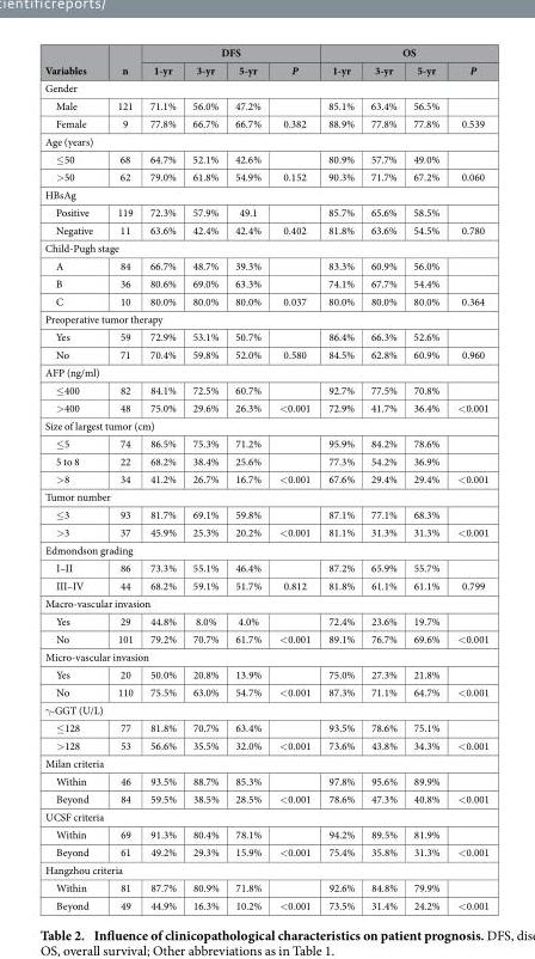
<table><thead><tr><td rowspan="2">Variables</td><td rowspan="2">n</td><td colspan="4">DFS</td><td colspan="4">OS</td></tr><tr><td>1-yr</td><td>3-yr</td><td>5-yr</td><td>P</td><td>1-yr</td><td>3-yr</td><td>5-yr</td><td>P</td></tr></thead><tbody><tr><td colspan="10">Gender</td></tr><tr><td>Male</td><td>121</td><td>71.1%</td><td>56.0%</td><td>47.2%</td><td></td><td>85.1%</td><td>63.4%</td><td>56.5%</td><td></td></tr><tr><td>Female</td><td>9</td><td>77.8%</td><td>66.7%</td><td>66.7%</td><td>0.382</td><td>88.9%</td><td>77.8%</td><td>77.8%</td><td>0.539</td></tr><tr><td colspan="10">Age (years)</td></tr><tr><td>≤ 50</td><td>68</td><td>64.7%</td><td>52.1%</td><td>42.6%</td><td></td><td>80.9%</td><td>57.7%</td><td>49.0%</td><td></td></tr><tr><td>&gt; 50</td><td>62</td><td>79.0%</td><td>61.8%</td><td>54.9%</td><td>0.152</td><td>90.3%</td><td>71.7%</td><td>67.2%</td><td>0.060</td></tr><tr><td colspan="10">HBsAg</td></tr><tr><td>Positive</td><td>119</td><td>72.3%</td><td>57.9%</td><td>49.1</td><td></td><td>85.7%</td><td>65.6%</td><td>58.5%</td><td></td></tr><tr><td>Negative</td><td>11</td><td>63.6%</td><td>42.4%</td><td>42.4%</td><td>0.402</td><td>81.8%</td><td>63.6%</td><td>54.5%</td><td>0.780</td></tr><tr><td colspan="10">Child-Pugh stage</td></tr><tr><td>A</td><td>84</td><td>66.7%</td><td>48.7%</td><td>39.3%</td><td></td><td>83.3%</td><td>60.9%</td><td>56.0%</td><td></td></tr><tr><td>B</td><td>36</td><td>80.6%</td><td>69.0%</td><td>63.3%</td><td></td><td>74.1%</td><td>67.7%</td><td>54.4%</td><td></td></tr><tr><td>C</td><td>10</td><td>80.0%</td><td>80.0%</td><td>80.0%</td><td>0.037</td><td>80.0%</td><td>80.0%</td><td>80.0%</td><td>0.364</td></tr><tr><td colspan="10">Preoperative tumor therapy</td></tr><tr><td>Yes</td><td>59</td><td>72.9%</td><td>53.1%</td><td>50.7%</td><td></td><td>86.4%</td><td>66.3%</td><td>52.6%</td><td></td></tr><tr><td>No</td><td>71</td><td>70.4%</td><td>59.8%</td><td>52.0%</td><td>0.580</td><td>84.5%</td><td>62.8%</td><td>60.9%</td><td>0.960</td></tr><tr><td colspan="10">AFP (ng/ml)</td></tr><tr><td>≤ 400</td><td>82</td><td>84.1%</td><td>72.5%</td><td>60.7%</td><td></td><td>92.7%</td><td>77.5%</td><td>70.8%</td><td></td></tr><tr><td>&gt; 400</td><td>48</td><td>75.0%</td><td>29.6%</td><td>26.3%</td><td>&lt; 0.001</td><td>72.9%</td><td>41.7%</td><td>36.4%</td><td>&lt; 0.001</td></tr><tr><td colspan="10">Size of largest tumor (cm)</td></tr><tr><td>≤ 5</td><td>74</td><td>86.5%</td><td>75.3%</td><td>71.2%</td><td></td><td>95.9%</td><td>84.2%</td><td>78.6%</td><td></td></tr><tr><td>5 to 8</td><td>22</td><td>68.2%</td><td>38.4%</td><td>25.6%</td><td></td><td>77.3%</td><td>54.2%</td><td>36.9%</td><td></td></tr><tr><td>&gt; 8</td><td>34</td><td>41.2%</td><td>26.7%</td><td>16.7%</td><td>&lt; 0.001</td><td>67.6%</td><td>29.4%</td><td>29.4%</td><td>&lt; 0.001</td></tr><tr><td colspan="10">Tumor number</td></tr><tr><td>≤ 3</td><td>93</td><td>81.7%</td><td>69.1%</td><td>59.8%</td><td></td><td>87.1%</td><td>77.1%</td><td>68.3%</td><td></td></tr><tr><td>&gt; 3</td><td>37</td><td>45.9%</td><td>25.3%</td><td>20.2%</td><td>&lt; 0.001</td><td>81.1%</td><td>31.3%</td><td>31.3%</td><td>&lt; 0.001</td></tr><tr><td colspan="10">Edmondson grading</td></tr><tr><td>I–II</td><td>86</td><td>73.3%</td><td>55.1%</td><td>46.4%</td><td></td><td>87.2%</td><td>65.9%</td><td>55.7%</td><td></td></tr><tr><td>III–IV</td><td>44</td><td>68.2%</td><td>59.1%</td><td>51.7%</td><td>0.812</td><td>81.8%</td><td>61.1%</td><td>61.1%</td><td>0.799</td></tr><tr><td colspan="10">Macro-vascular invasion</td></tr><tr><td>Yes</td><td>29</td><td>44.8%</td><td>8.0%</td><td>4.0%</td><td></td><td>72.4%</td><td>23.6%</td><td>19.7%</td><td></td></tr><tr><td>No</td><td>101</td><td>79.2%</td><td>70.7%</td><td>61.7%</td><td>&lt; 0.001</td><td>89.1%</td><td>76.7%</td><td>69.6%</td><td>&lt; 0.001</td></tr><tr><td colspan="10">Micro-vascular invasion</td></tr><tr><td>Yes</td><td>20</td><td>50.0%</td><td>20.8%</td><td>13.9%</td><td></td><td>75.0%</td><td>27.3%</td><td>21.8%</td><td></td></tr><tr><td>No</td><td>110</td><td>75.5%</td><td>63.0%</td><td>54.7%</td><td>&lt; 0.001</td><td>87.3%</td><td>71.1%</td><td>64.7%</td><td>&lt; 0.001</td></tr><tr><td colspan="10">γ -GGT (U/L)</td></tr><tr><td>≤ 128</td><td>77</td><td>81.8%</td><td>70.7%</td><td>63.4%</td><td></td><td>93.5%</td><td>78.6%</td><td>75.1%</td><td></td></tr><tr><td>&gt; 128</td><td>53</td><td>56.6%</td><td>35.5%</td><td>32.0%</td><td>&lt; 0.001</td><td>73.6%</td><td>43.8%</td><td>34.3%</td><td>&lt; 0.001</td></tr><tr><td colspan="10">Milan criteria</td></tr><tr><td>Within</td><td>46</td><td>93.5%</td><td>88.7%</td><td>85.3%</td><td></td><td>97.8%</td><td>95.6%</td><td>89.9%</td><td></td></tr><tr><td>Beyond</td><td>84</td><td>59.5%</td><td>38.5%</td><td>28.5%</td><td>&lt; 0.001</td><td>78.6%</td><td>47.3%</td><td>40.8%</td><td>&lt; 0.001</td></tr><tr><td colspan="10">UCSF criteria</td></tr><tr><td>Within</td><td>69</td><td>91.3%</td><td>80.4%</td><td>78.1%</td><td></td><td>94.2%</td><td>89.5%</td><td>81.9%</td><td></td></tr><tr><td>Beyond</td><td>61</td><td>49.2%</td><td>29.3%</td><td>15.9%</td><td>&lt; 0.001</td><td>75.4%</td><td>35.8%</td><td>31.3%</td><td>&lt; 0.001</td></tr><tr><td colspan="10">Hangzhou criteria</td></tr><tr><td>Within</td><td>81</td><td>87.7%</td><td>80.9%</td><td>71.8%</td><td></td><td>92.6%</td><td>84.8%</td><td>79.9%</td><td></td></tr><tr><td>Beyond</td><td>49</td><td>44.9%</td><td>16.3%</td><td>10.2%</td><td>&lt; 0.001</td><td>73.5%</td><td>31.4%</td><td>24.2%</td><td>&lt; 0.001</td></tr></tbody></table>